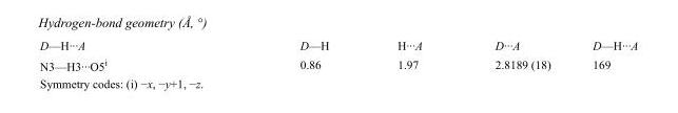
<table><tbody><tr><td>D—H···A</td><td>D—H</td><td>H···A</td><td>D···A</td><td>D—H···A</td></tr><tr><td>N3—H3···O5<sup>i</sup></td><td>0.86</td><td>1.97</td><td>2.8189 (18)</td><td>169</td></tr></tbody></table>